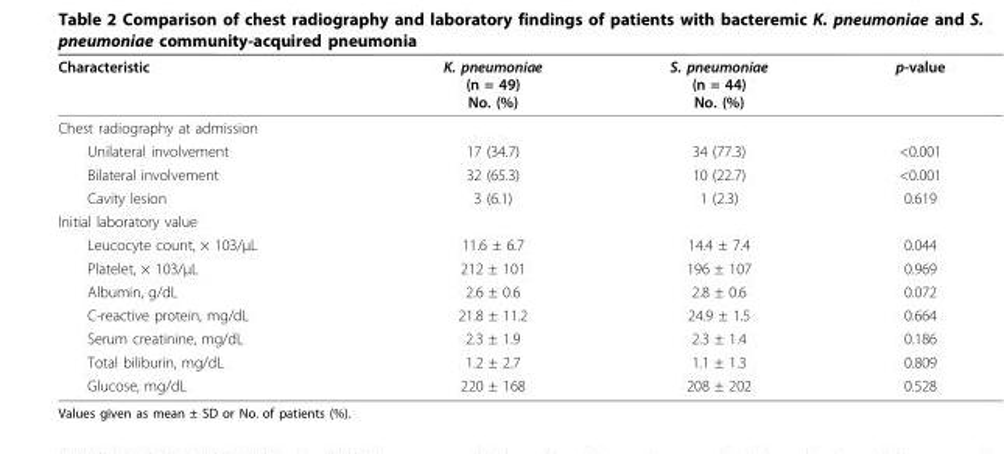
<table><thead><tr><td>Characteristic</td><td>K. pneumoniae (n = 49) No. (%)</td><td>S. pneumoniae (n = 44) No. (%)</td><td>p-value</td></tr></thead><tbody><tr><td colspan="4">Chest radiography at admission</td></tr><tr><td>Unilateral involvement</td><td>17 (34.7)</td><td>34 (77.3)</td><td>&lt;0.001</td></tr><tr><td>Bilateral involvement</td><td>32 (65.3)</td><td>10 (22.7)</td><td>&lt;0.001</td></tr><tr><td>Cavity lesion</td><td>3 (6.1)</td><td>1 (2.3)</td><td>0.619</td></tr><tr><td colspan="4">Initial laboratory value</td></tr><tr><td>Leucocyte count, × 103/μL</td><td>11.6 ± 6.7</td><td>14.4 ± 7.4</td><td>0.044</td></tr><tr><td>Platelet, × 103/μL</td><td>212 ± 101</td><td>196 ± 107</td><td>0.969</td></tr><tr><td>Albumin, g/dL</td><td>2.6 ± 0.6</td><td>2.8 ± 0.6</td><td>0.072</td></tr><tr><td>C-reactive protein, mg/dL</td><td>21.8 ± 11.2</td><td>24.9 ± 1.5</td><td>0.664</td></tr><tr><td>Serum creatinine, mg/dL</td><td>2.3 ± 1.9</td><td>2.3 ± 1.4</td><td>0.186</td></tr><tr><td>Total biliburin, mg/dL</td><td>1.2 ± 2.7</td><td>1.1 ± 1.3</td><td>0.809</td></tr><tr><td>Glucose, mg/dL</td><td>220 ± 168</td><td>208 ± 202</td><td>0.528</td></tr></tbody></table>